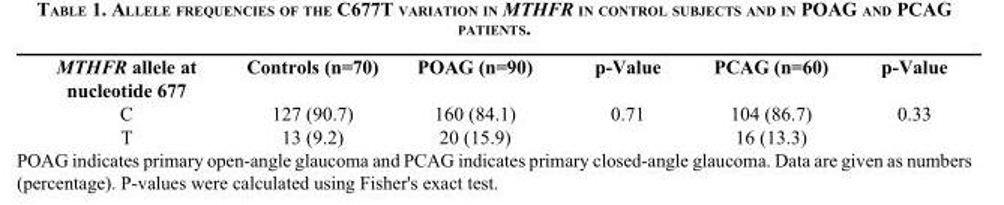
<table><tbody><tr><td>MTHFR allele at nucleotide 677</td><td>Controls (n=70)</td><td>POAG (n=90)</td><td>p-Value</td><td>PCAG (n=60)</td><td>p-Value</td></tr><tr><td>C</td><td>127 (90.7)</td><td>160 (84.1)</td><td>0.71</td><td>104 (86.7)</td><td>0.33</td></tr><tr><td>T</td><td>13 (9.2)</td><td>20 (15.9)</td><td></td><td>16 (13.3)</td><td></td></tr></tbody></table>